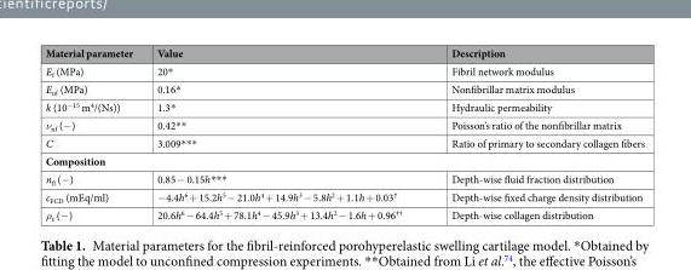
<table><thead><tr><td>Material parameter</td><td>Value</td><td>Description</td></tr></thead><tbody><tr><td>E<sub>f</sub> (MPa)</td><td>20*</td><td>Fibril network modulus</td></tr><tr><td>E<sub>nf</sub> (MPa)</td><td>0.16*</td><td>Nonfibrillar matrix modulus</td></tr><tr><td>k (10<sup>−15</sup> m<sup>4</sup>/(Ns))</td><td>1.3*</td><td>Hydraulic permeability</td></tr><tr><td>ν<sub>nf</sub> (−)</td><td>0.42**</td><td>Poisson’s ratio of the nonfibrillar matrix</td></tr><tr><td>C</td><td>3.009***</td><td>Ratio of primary to secondary collagen fibers</td></tr><tr><td colspan="3">Composition</td></tr><tr><td>n<sub>fl</sub> (−)</td><td>0.85 − 0.15h***</td><td>Depth-wise fluid fraction distribution</td></tr><tr><td>c<sub>FCD</sub> (mEq/ml)</td><td>−4.4h<sup>6</sup> + 15.2h<sup>5</sup> − 21.0h<sup>4</sup> + 14.9h<sup>3</sup> − 5.8h<sup>2</sup> + 1.1h + 0.03<sup>†</sup></td><td>Depth-wise fixed charge density distribution</td></tr><tr><td>ρ<sub>z</sub> (−)</td><td>20.6h<sup>6</sup> − 64.4h<sup>5</sup> + 78.1h<sup>4</sup> − 45.9h<sup>3</sup> + 13.4h<sup>2</sup> − 1.6h + 0.96<sup>††</sup></td><td>Depth-wise collagen distribution</td></tr></tbody></table>